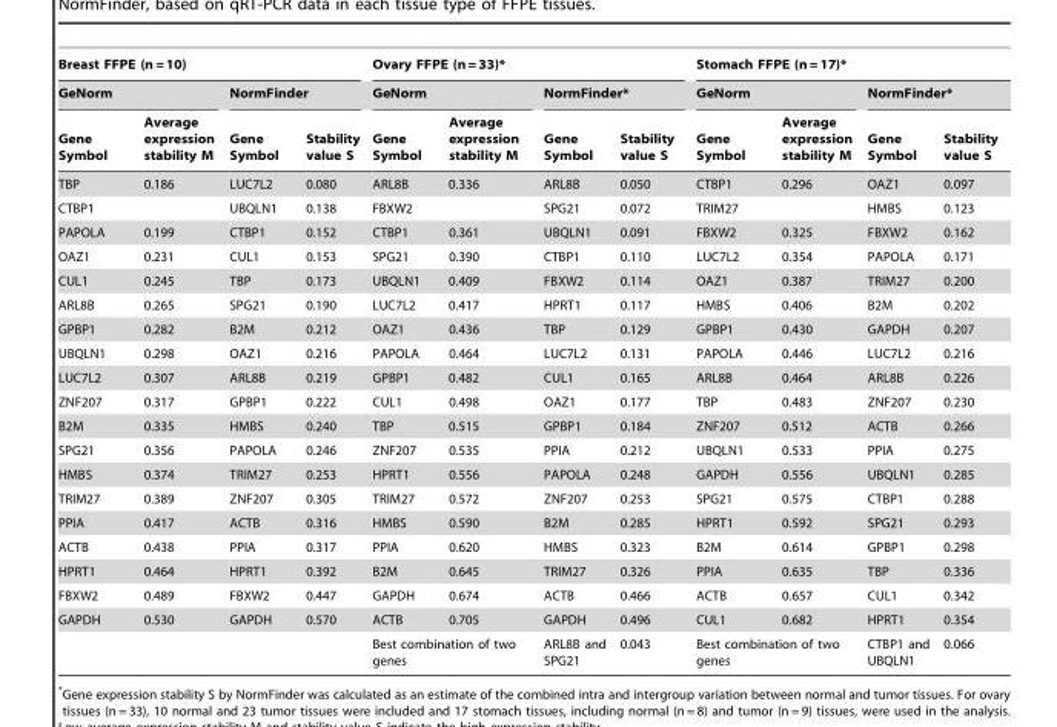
<table><thead><tr><td colspan="4">Breast FFPE (n = 10)</td><td colspan="4">Ovary FFPE (n = 33)*</td><td colspan="4">Stomach FFPE (n = 17)*</td></tr><tr><td colspan="2">GeNorm</td><td colspan="2">NormFinder</td><td colspan="2">GeNorm</td><td colspan="2">NormFinder*</td><td colspan="2">GeNorm</td><td colspan="2">NormFinder*</td></tr><tr><td>Gene Symbol</td><td>Average expression stability M</td><td>Gene Symbol</td><td>Stability value S</td><td>Gene Symbol</td><td>Average expression stability M</td><td>Gene Symbol</td><td>Stability value S</td><td>Gene Symbol</td><td>Average expression stability M</td><td>Gene Symbol</td><td>Stability value S</td></tr></thead><tbody><tr><td>TBP</td><td>0.186</td><td>LUC7L2</td><td>0.080</td><td>ARL8B</td><td>0.336</td><td>ARL8B</td><td>0.050</td><td>CTBP1</td><td>0.296</td><td>OAZ1</td><td>0.097</td></tr><tr><td>CTBP1</td><td></td><td>UBQLN1</td><td>0.138</td><td>FBXW2</td><td></td><td>SPG21</td><td>0.072</td><td>TRIM27</td><td></td><td>HMBS</td><td>0.123</td></tr><tr><td>PAPOLA</td><td>0.199</td><td>CTBP1</td><td>0.152</td><td>CTBP1</td><td>0.361</td><td>UBQLN1</td><td>0.091</td><td>FBXW2</td><td>0.325</td><td>FBXW2</td><td>0.162</td></tr><tr><td>OAZ1</td><td>0.231</td><td>CUL1</td><td>0.153</td><td>SPG21</td><td>0.390</td><td>CTBP1</td><td>0.110</td><td>LUC7L2</td><td>0.354</td><td>PAPOLA</td><td>0.171</td></tr><tr><td>CUL1</td><td>0.245</td><td>TBP</td><td>0.173</td><td>UBQLN1</td><td>0.409</td><td>FBXW2</td><td>0.114</td><td>OAZ1</td><td>0.387</td><td>TRIM27</td><td>0.200</td></tr><tr><td>ARL8B</td><td>0.265</td><td>SPG21</td><td>0.190</td><td>LUC7L2</td><td>0.417</td><td>HPRT1</td><td>0.117</td><td>HMBS</td><td>0.406</td><td>B2M</td><td>0.202</td></tr><tr><td>GPBP1</td><td>0.282</td><td>B2M</td><td>0.212</td><td>OAZ1</td><td>0.436</td><td>TBP</td><td>0.129</td><td>GPBP1</td><td>0.430</td><td>GAPDH</td><td>0.207</td></tr><tr><td>UBQLN1</td><td>0.298</td><td>OAZ1</td><td>0.216</td><td>PAPOLA</td><td>0.464</td><td>LUC7L2</td><td>0.131</td><td>PAPOLA</td><td>0.446</td><td>LUC7L2</td><td>0.216</td></tr><tr><td>LUC7L2</td><td>0.307</td><td>ARL8B</td><td>0.219</td><td>GPBP1</td><td>0.482</td><td>CUL1</td><td>0.165</td><td>ARL8B</td><td>0.464</td><td>ARL8B</td><td>0.226</td></tr><tr><td>ZNF207</td><td>0.317</td><td>GPBP1</td><td>0.222</td><td>CUL1</td><td>0.498</td><td>OAZ1</td><td>0.177</td><td>TBP</td><td>0.483</td><td>ZNF207</td><td>0.230</td></tr><tr><td>B2M</td><td>0.335</td><td>HMBS</td><td>0.240</td><td>TBP</td><td>0.515</td><td>GPBP1</td><td>0.184</td><td>ZNF207</td><td>0.512</td><td>ACTB</td><td>0.266</td></tr><tr><td>SPG21</td><td>0.356</td><td>PAPOLA</td><td>0.246</td><td>ZNF207</td><td>0.535</td><td>PPIA</td><td>0.212</td><td>UBQLN1</td><td>0.533</td><td>PPIA</td><td>0.275</td></tr><tr><td>HMBS</td><td>0.374</td><td>TRIM27</td><td>0.253</td><td>HPRT1</td><td>0.556</td><td>PAPOLA</td><td>0.248</td><td>GAPDH</td><td>0.556</td><td>UBQLN1</td><td>0.285</td></tr><tr><td>TRIM27</td><td>0.389</td><td>ZNF207</td><td>0.305</td><td>TRIM27</td><td>0.572</td><td>ZNF207</td><td>0.253</td><td>SPG21</td><td>0.575</td><td>CTBP1</td><td>0.288</td></tr><tr><td>PPIA</td><td>0.417</td><td>ACTB</td><td>0.316</td><td>HMBS</td><td>0.590</td><td>B2M</td><td>0.285</td><td>HPRT1</td><td>0.592</td><td>SPG21</td><td>0.293</td></tr><tr><td>ACTB</td><td>0.438</td><td>PPIA</td><td>0.317</td><td>PPIA</td><td>0.620</td><td>HMBS</td><td>0.323</td><td>B2M</td><td>0.614</td><td>GPBP1</td><td>0.298</td></tr><tr><td>HPRT1</td><td>0.464</td><td>HPRT1</td><td>0.392</td><td>B2M</td><td>0.645</td><td>TRIM27</td><td>0.326</td><td>PPIA</td><td>0.635</td><td>TBP</td><td>0.336</td></tr><tr><td>FBXW2</td><td>0.489</td><td>FBXW2</td><td>0.447</td><td>GAPDH</td><td>0.674</td><td>ACTB</td><td>0.466</td><td>ACTB</td><td>0.657</td><td>CUL1</td><td>0.342</td></tr><tr><td rowspan="2">GAPDH</td><td>0.530</td><td>GAPDH</td><td>0.570</td><td>ACTB</td><td>0.705</td><td>GAPDH</td><td>0.496</td><td>CUL1</td><td>0.682</td><td>HPRT1</td><td>0.354</td></tr><tr><td></td><td></td><td></td><td colspan="2">Best combination of two genes</td><td>ARL8B and SPG21</td><td>0.043</td><td colspan="2">Best combination of two genes</td><td>CTBP1 and UBQLN1</td><td>0.066</td></tr></tbody></table>